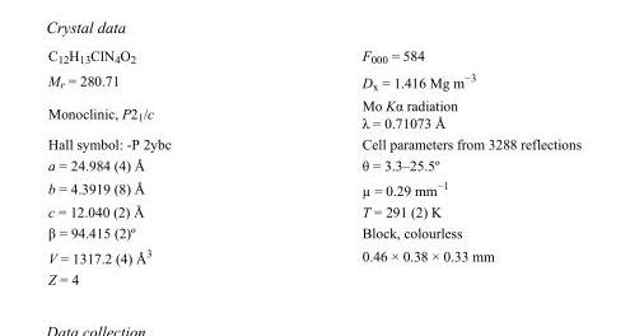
<table><tbody><tr><td>C<sub>12</sub>H<sub>13</sub>ClN<sub>4</sub>O<sub>2</sub></td><td>F<sub>000</sub> = 584</td></tr><tr><td>M<sub>r</sub> = 280.71</td><td>D<sub>x</sub> = 1.416 Mg m<sup>−3</sup></td></tr><tr><td>Monoclinic, P2<sub>1</sub>/c</td><td>Mo Kα radiation λ = 0.71073 Å</td></tr><tr><td>Hall symbol: -P 2ybc</td><td>Cell parameters from 3288 reflections</td></tr><tr><td>a = 24.984 (4) Å</td><td>θ = 3.3–25.5º</td></tr><tr><td>b = 4.3919 (8) Å</td><td>µ = 0.29 mm<sup>−1</sup></td></tr><tr><td>c = 12.040 (2) Å</td><td>T = 291 (2) K</td></tr><tr><td>β = 94.415 (2)º</td><td>Block, colourless</td></tr><tr><td>V = 1317.2 (4) Å<sup>3</sup></td><td>0.46 × 0.38 × 0.33 mm</td></tr><tr><td>Z = 4</td><td></td></tr></tbody></table>